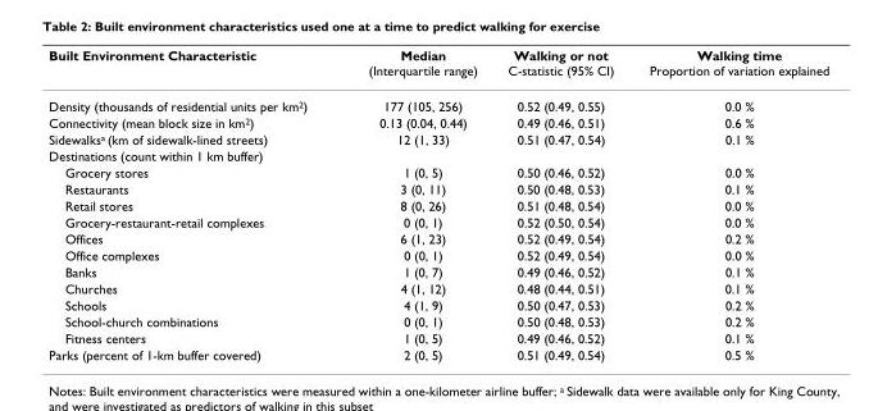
<table><thead><tr><td>Built Environment Characteristic</td><td>Median (Interquartile range)</td><td>Walking or not C-statistic (95% CI)</td><td>Walking time Proportion of variation explained</td></tr></thead><tbody><tr><td>Density (thousands of residential units per km<sup>2</sup>)</td><td>177 (105, 256)</td><td>0.52 (0.49, 0.55)</td><td>0.0 %</td></tr><tr><td>Connectivity (mean block size in km<sup>2</sup>)</td><td>0.13 (0.04, 0.44)</td><td>0.49 (0.46, 0.51)</td><td>0.6 %</td></tr><tr><td>Sidewalks<sup>a</sup> (km of sidewalk-lined streets)</td><td>12 (1, 33)</td><td>0.51 (0.47, 0.54)</td><td>0.1 %</td></tr><tr><td colspan="4">Destinations (count within 1 km buffer)</td></tr><tr><td>Grocery stores</td><td>1 (0, 5)</td><td>0.50 (0.46, 0.52)</td><td>0.0 %</td></tr><tr><td>Restaurants</td><td>3 (0, 11)</td><td>0.50 (0.48, 0.53)</td><td>0.1 %</td></tr><tr><td>Retail stores</td><td>8 (0, 26)</td><td>0.51 (0.48, 0.54)</td><td>0.0 %</td></tr><tr><td>Grocery-restaurant-retail complexes</td><td>0 (0, 1)</td><td>0.52 (0.50, 0.54)</td><td>0.0 %</td></tr><tr><td>Offices</td><td>6 (1, 23)</td><td>0.52 (0.49, 0.54)</td><td>0.2 %</td></tr><tr><td>Office complexes</td><td>0 (0, 1)</td><td>0.52 (0.49, 0.54)</td><td>0.0 %</td></tr><tr><td>Banks</td><td>1 (0, 7)</td><td>0.49 (0.46, 0.52)</td><td>0.1 %</td></tr><tr><td>Churches</td><td>4 (1, 12)</td><td>0.48 (0.44, 0.51)</td><td>0.1 %</td></tr><tr><td>Schools</td><td>4 (1, 9)</td><td>0.50 (0.47, 0.53)</td><td>0.2 %</td></tr><tr><td>School-church combinations</td><td>0 (0, 1)</td><td>0.50 (0.48, 0.53)</td><td>0.2 %</td></tr><tr><td>Fitness centers</td><td>1 (0, 5)</td><td>0.49 (0.46, 0.52)</td><td>0.1 %</td></tr><tr><td>Parks (percent of 1-km buffer covered)</td><td>2 (0, 5)</td><td>0.51 (0.49, 0.54)</td><td>0.5 %</td></tr></tbody></table>